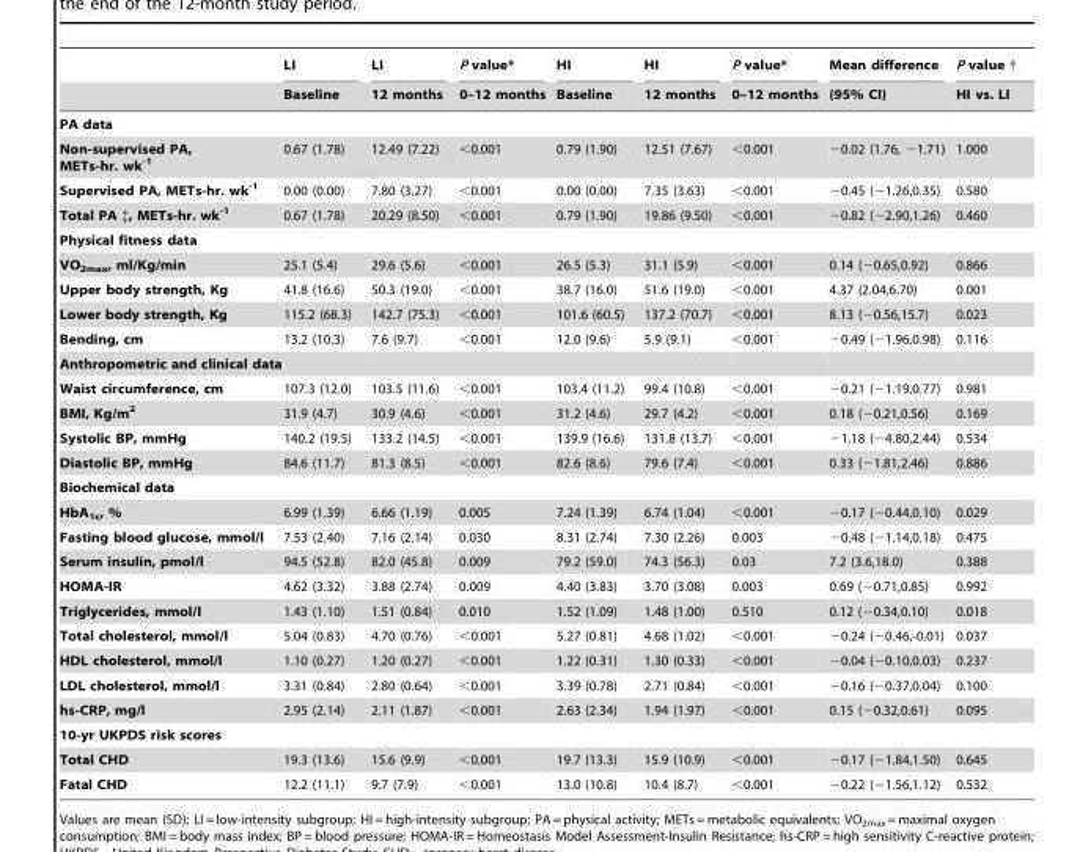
<table><thead><tr><td rowspan="2"></td><td rowspan="2">LI Baseline</td><td rowspan="2">LI 12 months</td><td rowspan="2">P value* 0–12 months</td><td rowspan="2">HI Baseline</td><td rowspan="2">HI 12 months</td><td rowspan="2">P value* 0–12 months</td><td rowspan="2">Mean difference (95% CI)</td><td rowspan="2">P value HI vs. LI</td></tr><tr></tr></thead><tbody><tr><td colspan="9">PA data</td></tr><tr><td>Non-supervised PA, METs-hr. wk<sup>-1</sup></td><td>0.67 (1.78)</td><td>12.49 (7.22)</td><td>&lt;0.001</td><td>0.79 (1.90)</td><td>12.51 (7.67)</td><td>&lt;0.001</td><td>−0.02 (1.76, −1.71)</td><td>1.000</td></tr><tr><td>Supervised PA, METs-hr. wk<sup>-1</sup></td><td>0.00 (0.00)</td><td>7.80 (3.27)</td><td>&lt;0.001</td><td>0.00 (0.00)</td><td>7.35 (3.63)</td><td>&lt;0.001</td><td>−0.45 (−1.26,0.35)</td><td>0.580</td></tr><tr><td>Total PA ‡, METs-hr. wk<sup>-1</sup></td><td>0.67 (1.78)</td><td>20.29 (8.50)</td><td>&lt;0.001</td><td>0.79 (1.90)</td><td>19.86 (9.50)</td><td>&lt;0.001</td><td>−0.82 (−2.90,1.26)</td><td>0.460</td></tr><tr><td colspan="9">Physical fitness data</td></tr><tr><td>VO<sub>2max</sub>, ml/Kg/min</td><td>25.1 (5.4)</td><td>29.6 (5.6)</td><td>&lt;0.001</td><td>26.5 (5.3)</td><td>31.1 (5.9)</td><td>&lt;0.001</td><td>0.14 (−0.65,0.92)</td><td>0.866</td></tr><tr><td>Upper body strength, Kg</td><td>41.8 (16.6)</td><td>50.3 (19.0)</td><td>&lt;0.001</td><td>38.7 (16.0)</td><td>51.6 (19.0)</td><td>&lt;0.001</td><td>4.37 (2.04,6.70)</td><td>0.001</td></tr><tr><td>Lower body strength, Kg</td><td>115.2 (68.3)</td><td>142.7 (75.3)</td><td>&lt;0.001</td><td>101.6 (60.5)</td><td>137.2 (70.7)</td><td>&lt;0.001</td><td>8.13 (−0.56,15.7)</td><td>0.023</td></tr><tr><td>Bending, cm</td><td>13.2 (10.3)</td><td>7.6 (9.7)</td><td>&lt;0.001</td><td>12.0 (9.6)</td><td>5.9 (9.1)</td><td>&lt;0.001</td><td>−0.49 (−1.96,0.98)</td><td>0.116</td></tr><tr><td colspan="9">Anthropometric and clinical data</td></tr><tr><td>Waist circumference, cm</td><td>107.3 (12.0)</td><td>103.5 (11.6)</td><td>&lt;0.001</td><td>103.4 (11.2)</td><td>99.4 (10.8)</td><td>&lt;0.001</td><td>−0.21 (−1.19,0.77)</td><td>0.981</td></tr><tr><td>BMI, Kg/m<sup>2</sup></td><td>31.9 (4.7)</td><td>30.9 (4.6)</td><td>&lt;0.001</td><td>31.2 (4.6)</td><td>29.7 (4.2)</td><td>&lt;0.001</td><td>0.18 (−0.21,0.56)</td><td>0.169</td></tr><tr><td>Systolic BP, mmHg</td><td>140.2 (19.5)</td><td>133.2 (14.5)</td><td>&lt;0.001</td><td>139.9 (16.6)</td><td>131.8 (13.7)</td><td>&lt;0.001</td><td>−1.18 (−4.80,2.44)</td><td>0.534</td></tr><tr><td>Diastolic BP, mmHg</td><td>84.6 (11.7)</td><td>81.3 (8.5)</td><td>&lt;0.001</td><td>82.6 (8.6)</td><td>79.6 (7.4)</td><td>&lt;0.001</td><td>0.33 (−1.81,2.46)</td><td>0.886</td></tr><tr><td colspan="9">Biochemical data</td></tr><tr><td>HbA<sub>1c</sub>, %</td><td>6.99 (1.39)</td><td>6.66 (1.19)</td><td>0.005</td><td>7.24 (1.39)</td><td>6.74 (1.04)</td><td>&lt;0.001</td><td>−0.17 (−0.44,0.10)</td><td>0.029</td></tr><tr><td>Fasting blood glucose, mmol/l</td><td>7.53 (2.40)</td><td>7.16 (2.14)</td><td>0.030</td><td>8.31 (2.74)</td><td>7.30 (2.26)</td><td>0.003</td><td>−0.48 (−1.14,0.18)</td><td>0.475</td></tr><tr><td>Serum insulin, pmol/l</td><td>94.5 (52.8)</td><td>82.0 (45.8)</td><td>0.009</td><td>79.2 (59.0)</td><td>74.3 (56.3)</td><td>0.03</td><td>7.2 (3.6,18.0)</td><td>0.388</td></tr><tr><td>HOMA-IR</td><td>4.62 (3.32)</td><td>3.88 (2.74)</td><td>0.009</td><td>4.40 (3.83)</td><td>3.70 (3.08)</td><td>0.003</td><td>0.69 (−0.71,0.85)</td><td>0.992</td></tr><tr><td>Triglycerides, mmol/l</td><td>1.43 (1.10)</td><td>1.51 (0.84)</td><td>0.010</td><td>1.52 (1.09)</td><td>1.48 (1.00)</td><td>0.510</td><td>0.12 (−0.34,0.10)</td><td>0.018</td></tr><tr><td>Total cholesterol, mmol/l</td><td>5.04 (0.83)</td><td>4.70 (0.76)</td><td>&lt;0.001</td><td>5.27 (0.81)</td><td>4.68 (1.02)</td><td>&lt;0.001</td><td>−0.24 (−0.46,-0.01)</td><td>0.037</td></tr><tr><td>HDL cholesterol, mmol/l</td><td>1.10 (0.27)</td><td>1.20 (0.27)</td><td>&lt;0.001</td><td>1.22 (0.31)</td><td>1.30 (0.33)</td><td>&lt;0.001</td><td>−0.04 (−0.10,0.03)</td><td>0.237</td></tr><tr><td>LDL cholesterol, mmol/l</td><td>3.31 (0.84)</td><td>2.80 (0.64)</td><td>&lt;0.001</td><td>3.39 (0.78)</td><td>2.71 (0.84)</td><td>&lt;0.001</td><td>−0.16 (−0.37,0.04)</td><td>0.100</td></tr><tr><td>hs-CRP, mg/l</td><td>2.95 (2.14)</td><td>2.11 (1.87)</td><td>&lt;0.001</td><td>2.63 (2.34)</td><td>1.94 (1.97)</td><td>&lt;0.001</td><td>0.15 (−0.32,0.61)</td><td>0.095</td></tr><tr><td colspan="9">10-yr UKPDS risk scores</td></tr><tr><td>Total CHD</td><td>19.3 (13.6)</td><td>15.6 (9.9)</td><td>&lt;0.001</td><td>19.7 (13.3)</td><td>15.9 (10.9)</td><td>&lt;0.001</td><td>−0.17 (−1.84,1.50)</td><td>0.645</td></tr><tr><td>Fatal CHD</td><td>12.2 (11.1)</td><td>9.7 (7.9)</td><td>&lt;0.001</td><td>13.0 (10.8)</td><td>10.4 (8.7)</td><td>&lt;0.001</td><td>−0.22 (−1.56,1.12)</td><td>0.532</td></tr></tbody></table>